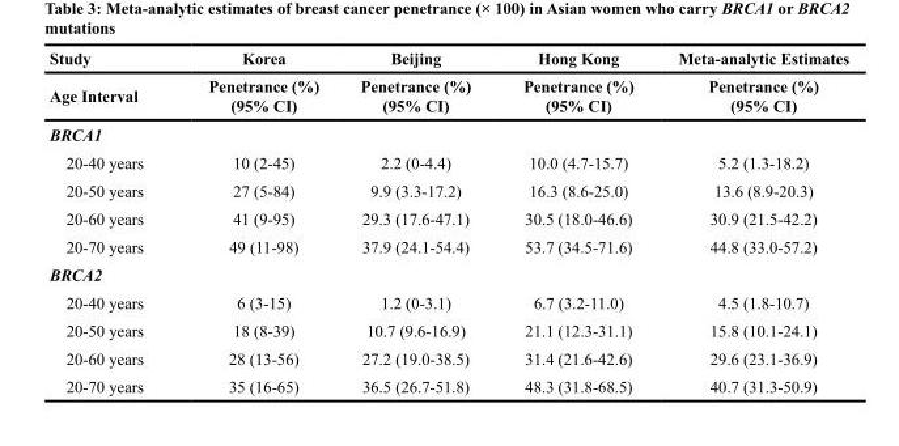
<table><thead><tr><td rowspan="2">Study Age Interval</td><td rowspan="2">Korea Penetrance (%) (95% CI)</td><td rowspan="2">Beijing Penetrance (%) (95% CI)</td><td rowspan="2">Hong Kong Penetrance (%) (95% CI)</td><td rowspan="2">Meta-analytic Estimates Penetrance (%) (95% CI)</td></tr><tr></tr></thead><tbody><tr><td colspan="5">BRCA1</td></tr><tr><td>20-40 years</td><td>10 (2-45)</td><td>2.2 (0-4.4)</td><td>10.0 (4.7-15.7)</td><td>5.2 (1.3-18.2)</td></tr><tr><td>20-50 years</td><td>27 (5-84)</td><td>9.9 (3.3-17.2)</td><td>16.3 (8.6-25.0)</td><td>13.6 (8.9-20.3)</td></tr><tr><td>20-60 years</td><td>41 (9-95)</td><td>29.3 (17.6-47.1)</td><td>30.5 (18.0-46.6)</td><td>30.9 (21.5-42.2)</td></tr><tr><td>20-70 years</td><td>49 (11-98)</td><td>37.9 (24.1-54.4)</td><td>53.7 (34.5-71.6)</td><td>44.8 (33.0-57.2)</td></tr><tr><td colspan="5">BRCA2</td></tr><tr><td>20-40 years</td><td>6 (3-15)</td><td>1.2 (0-3.1)</td><td>6.7 (3.2-11.0)</td><td>4.5 (1.8-10.7)</td></tr><tr><td>20-50 years</td><td>18 (8-39)</td><td>10.7 (9.6-16.9)</td><td>21.1 (12.3-31.1)</td><td>15.8 (10.1-24.1)</td></tr><tr><td>20-60 years</td><td>28 (13-56)</td><td>27.2 (19.0-38.5)</td><td>31.4 (21.6-42.6)</td><td>29.6 (23.1-36.9)</td></tr><tr><td>20-70 years</td><td>35 (16-65)</td><td>36.5 (26.7-51.8)</td><td>48.3 (31.8-68.5)</td><td>40.7 (31.3-50.9)</td></tr></tbody></table>